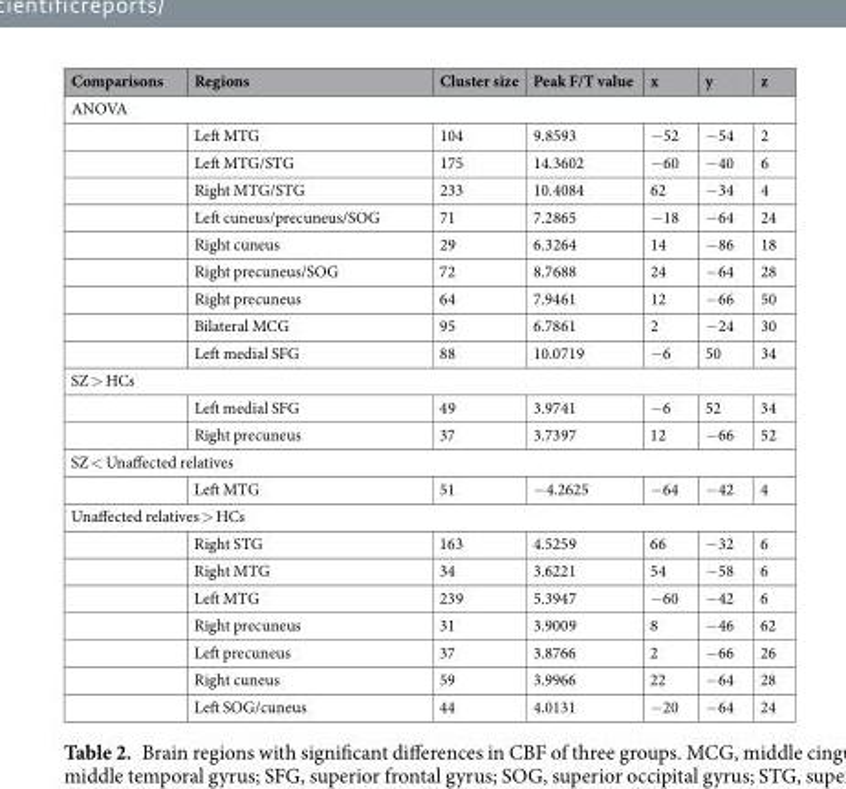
<table><thead><tr><td>Comparisons</td><td>Regions</td><td>Cluster size</td><td>Peak F/T value</td><td>x</td><td>y</td><td>z</td></tr></thead><tbody><tr><td colspan="7">ANOVA</td></tr><tr><td></td><td>Left MTG</td><td>104</td><td>9.8593</td><td>−52</td><td>−54</td><td>2</td></tr><tr><td></td><td>Left MTG/STG</td><td>175</td><td>14.3602</td><td>−60</td><td>−40</td><td>6</td></tr><tr><td></td><td>Right MTG/STG</td><td>233</td><td>10.4084</td><td>62</td><td>−34</td><td>4</td></tr><tr><td></td><td>Left cuneus/precuneus/SOG</td><td>71</td><td>7.2865</td><td>−18</td><td>−64</td><td>24</td></tr><tr><td></td><td>Right cuneus</td><td>29</td><td>6.3264</td><td>14</td><td>−86</td><td>18</td></tr><tr><td></td><td>Right precuneus/SOG</td><td>72</td><td>8.7688</td><td>24</td><td>−64</td><td>28</td></tr><tr><td></td><td>Right precuneus</td><td>64</td><td>7.9461</td><td>12</td><td>−66</td><td>50</td></tr><tr><td></td><td>Bilateral MCG</td><td>95</td><td>6.7861</td><td>2</td><td>−24</td><td>30</td></tr><tr><td></td><td>Left medial SFG</td><td>88</td><td>10.0719</td><td>−6</td><td>50</td><td>34</td></tr><tr><td colspan="7">SZ &gt; HCs</td></tr><tr><td></td><td>Left medial SFG</td><td>49</td><td>3.9741</td><td>−6</td><td>52</td><td>34</td></tr><tr><td></td><td>Right precuneus</td><td>37</td><td>3.7397</td><td>12</td><td>−66</td><td>52</td></tr><tr><td colspan="7">SZ &lt; Unaffected relatives</td></tr><tr><td></td><td>Left MTG</td><td>51</td><td>−4.2625</td><td>−64</td><td>−42</td><td>4</td></tr><tr><td colspan="7">Unaffected relatives &gt; HCs</td></tr><tr><td></td><td>Right STG</td><td>163</td><td>4.5259</td><td>66</td><td>−32</td><td>6</td></tr><tr><td></td><td>Right MTG</td><td>34</td><td>3.6221</td><td>54</td><td>−58</td><td>6</td></tr><tr><td></td><td>Left MTG</td><td>239</td><td>5.3947</td><td>−60</td><td>−42</td><td>6</td></tr><tr><td></td><td>Right precuneus</td><td>31</td><td>3.9009</td><td>8</td><td>−46</td><td>62</td></tr><tr><td></td><td>Left precuneus</td><td>37</td><td>3.8766</td><td>2</td><td>−66</td><td>26</td></tr><tr><td></td><td>Right cuneus</td><td>59</td><td>3.9966</td><td>22</td><td>−64</td><td>28</td></tr><tr><td></td><td>Left SOG/cuneus</td><td>44</td><td>4.0131</td><td>−20</td><td>−64</td><td>24</td></tr></tbody></table>